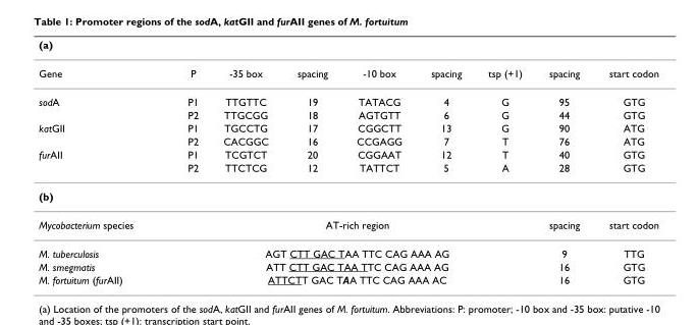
<table><thead><tr><td colspan="9">(a)</td></tr><tr><td>Gene</td><td>P</td><td>-35 box</td><td>spacing</td><td>-10 box</td><td>spacing</td><td>tsp (+1)</td><td>spacing</td><td>start codon</td></tr></thead><tbody><tr><td rowspan="2">sodA</td><td>P1</td><td>TTGTTC</td><td>19</td><td>TATACG</td><td>4</td><td>G</td><td>95</td><td>GTG</td></tr><tr><td>P2</td><td>TTGCGG</td><td>18</td><td>AGTGTT</td><td>6</td><td>G</td><td>44</td><td>GTG</td></tr><tr><td rowspan="2">katGII</td><td>P1</td><td>TGCCTG</td><td>17</td><td>CGGCTT</td><td>13</td><td>G</td><td>90</td><td>ATG</td></tr><tr><td>P2</td><td>CACGGC</td><td>16</td><td>CCGAGG</td><td>7</td><td>T</td><td>76</td><td>ATG</td></tr><tr><td rowspan="2">furAII</td><td>P1</td><td>TCGTCT</td><td>20</td><td>CGGAAT</td><td>12</td><td>T</td><td>40</td><td>GTG</td></tr><tr><td>P2</td><td>TTCTCG</td><td>12</td><td>TATTCT</td><td>5</td><td>A</td><td>28</td><td>GTG</td></tr><tr><td colspan="9">(b)</td></tr><tr><td>Mycobacterium species</td><td colspan="6">AT-rich region</td><td>spacing</td><td>start codon</td></tr><tr><td>M. tuberculosis</td><td colspan="6">AGT CTT GAC TAA TTC CAG AAA AG</td><td>9</td><td>TTG</td></tr><tr><td>M. smegmatis</td><td colspan="6">ATT CTT GAC TAA TTC CAG AAA AG</td><td>16</td><td>GTG</td></tr><tr><td>M. fortuitum (furAII)</td><td colspan="6">ATTCTT GAC TAA TTC CAG AAA AC</td><td>16</td><td>GTG</td></tr></tbody></table>